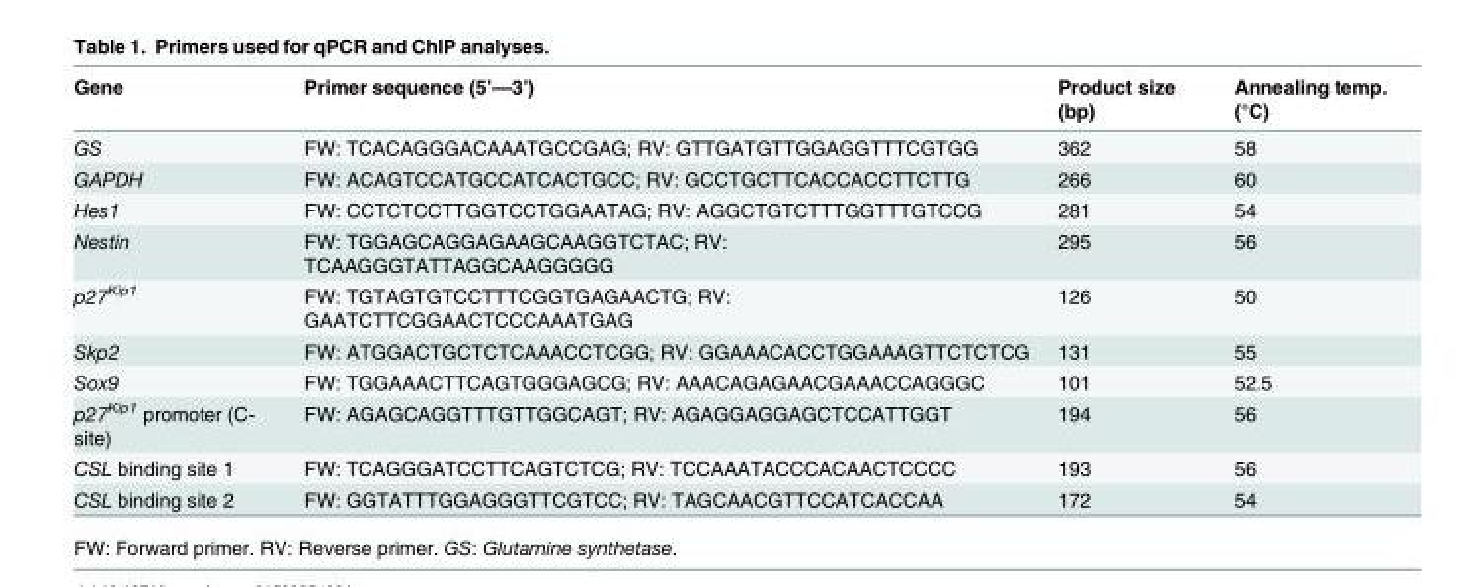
<table><thead><tr><td>Gene</td><td>Primer sequence (5’—3’)</td><td>Product size (bp)</td><td>Annealing temp. (°C)</td></tr></thead><tbody><tr><td>GS</td><td>FW: TCACAGGGACAAATGCCGAG; RV: GTTGATGTTGGAGGTTTCGTGG</td><td>362</td><td>58</td></tr><tr><td>GAPDH</td><td>FW: ACAGTCCATGCCATCACTGCC; RV: GCCTGCTTCACCACCTTCTTG</td><td>266</td><td>60</td></tr><tr><td>Hes1</td><td>FW: CCTCTCCTTGGTCCTGGAATAG; RV: AGGCTGTCTTTGGTTTGTCCG</td><td>281</td><td>54</td></tr><tr><td>Nestin</td><td>FW: TGGAGCAGGAGAAGCAAGGTCTAC; RV: TCAAGGGTATTAGGCAAGGGGG</td><td>295</td><td>56</td></tr><tr><td>p27<sup>Kip1</sup></td><td>FW: TGTAGTGTCCTTTCGGTGAGAACTG; RV: GAATCTTCGGAACTCCCAAATGAG</td><td>126</td><td>50</td></tr><tr><td>Skp2</td><td>FW: ATGGACTGCTCTCAAACCTCGG; RV: GGAAACACCTGGAAAGTTCTCTCG</td><td>131</td><td>55</td></tr><tr><td>Sox9</td><td>FW: TGGAAACTTCAGTGGGAGCG; RV: AAACAGAGAACGAAACCAGGGC</td><td>101</td><td>52.5</td></tr><tr><td>p27<sup>Kip1</sup> promoter (C- site)</td><td>FW: AGAGCAGGTTTGTTGGCAGT; RV: AGAGGAGGAGCTCCATTGGT</td><td>194</td><td>56</td></tr><tr><td>CSL binding site 1</td><td>FW: TCAGGGATCCTTCAGTCTCG; RV: TCCAAATACCCACAACTCCCC</td><td>193</td><td>56</td></tr><tr><td>CSL binding site 2</td><td>FW: GGTATTTGGAGGGTTCGTCC; RV: TAGCAACGTTCCATCACCAA</td><td>172</td><td>54</td></tr></tbody></table>